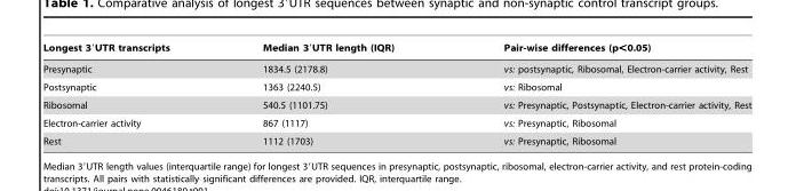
<table><thead><tr><td>Longest 3′UTR transcripts</td><td>Median 3′UTR length (IQR)</td><td>Pair-wise differences (p&lt;0.05)</td></tr></thead><tbody><tr><td>Presynaptic</td><td>1834.5 (2178.8)</td><td>vs: postsynaptic, Ribosomal, Electron-carrier activity, Rest</td></tr><tr><td>Postsynaptic</td><td>1363 (2240.5)</td><td>vs: Ribosomal</td></tr><tr><td>Ribosomal</td><td>540.5 (1101.75)</td><td>vs: Presynaptic, Postsynaptic, Electron-carrier activity, Rest</td></tr><tr><td>Electron-carrier activity</td><td>867 (1117)</td><td>vs: Presynaptic, Ribosomal</td></tr><tr><td>Rest</td><td>1112 (1703)</td><td>vs: Presynaptic, Ribosomal</td></tr></tbody></table>